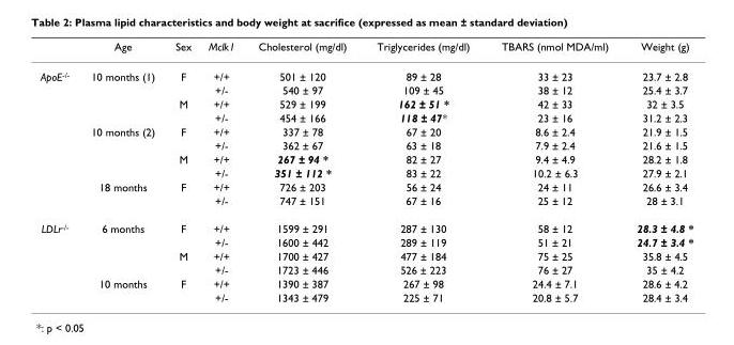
<table><thead><tr><td></td><td>Age</td><td>Sex</td><td>Mclk1</td><td>Cholesterol (mg/dl)</td><td>Triglycerides (mg/dl)</td><td>TBARS (nmol MDA/ml)</td><td>Weight (g)</td></tr></thead><tbody><tr><td rowspan="10">ApoE<sup>-/-</sup></td><td>10 months (1)</td><td>F</td><td>+/+</td><td>501 ± 120</td><td>89 ± 28</td><td>33 ± 23</td><td>23.7 ± 2.8</td></tr><tr><td></td><td></td><td>+/-</td><td>540 ± 97</td><td>109 ± 45</td><td>38 ± 12</td><td>25.4 ± 3.7</td></tr><tr><td></td><td>M</td><td>+/+</td><td>529 ± 199</td><td>162 ± 51 *</td><td>42 ± 33</td><td>32 ± 3.5</td></tr><tr><td></td><td></td><td>+/-</td><td>454 ± 166</td><td>118 ± 47*</td><td>23 ± 16</td><td>31.2 ± 2.3</td></tr><tr><td>10 months (2)</td><td>F</td><td>+/+</td><td>337 ± 78</td><td>67 ± 20</td><td>8.6 ± 2.4</td><td>21.9 ± 1.5</td></tr><tr><td></td><td></td><td>+/-</td><td>362 ± 67</td><td>63 ± 18</td><td>7.9 ± 2.4</td><td>21.6 ± 1.5</td></tr><tr><td></td><td>M</td><td>+/+</td><td>267 ± 94 *</td><td>82 ± 27</td><td>9.4 ± 4.9</td><td>28.2 ± 1.8</td></tr><tr><td></td><td></td><td>+/-</td><td>351 ± 112 *</td><td>83 ± 22</td><td>10.2 ± 6.3</td><td>27.9 ± 2.1</td></tr><tr><td>18 months</td><td>F</td><td>+/+</td><td>726 ± 203</td><td>56 ± 24</td><td>24 ± 11</td><td>26.6 ± 3.4</td></tr><tr><td></td><td></td><td>+/-</td><td>747 ± 151</td><td>67 ± 16</td><td>25 ± 12</td><td>28 ± 3.1</td></tr><tr><td rowspan="6">LDLr<sup>-/-</sup></td><td>6 months</td><td>F</td><td>+/+</td><td>1599 ± 291</td><td>287 ± 130</td><td>58 ± 12</td><td>28.3 ± 4.8 *</td></tr><tr><td></td><td></td><td>+/-</td><td>1600 ± 442</td><td>289 ± 119</td><td>51 ± 21</td><td>24.7 ± 3.4 *</td></tr><tr><td></td><td>M</td><td>+/+</td><td>1700 ± 427</td><td>477 ± 184</td><td>75 ± 25</td><td>35.8 ± 4.5</td></tr><tr><td></td><td></td><td>+/-</td><td>1723 ± 446</td><td>526 ± 223</td><td>76 ± 27</td><td>35 ± 4.2</td></tr><tr><td>10 months</td><td>F</td><td>+/+</td><td>1390 ± 387</td><td>267 ± 98</td><td>24.4 ± 7.1</td><td>28.6 ± 4.2</td></tr><tr><td></td><td></td><td>+/-</td><td>1343 ± 479</td><td>225 ± 71</td><td>20.8 ± 5.7</td><td>28.4 ± 3.4</td></tr></tbody></table>